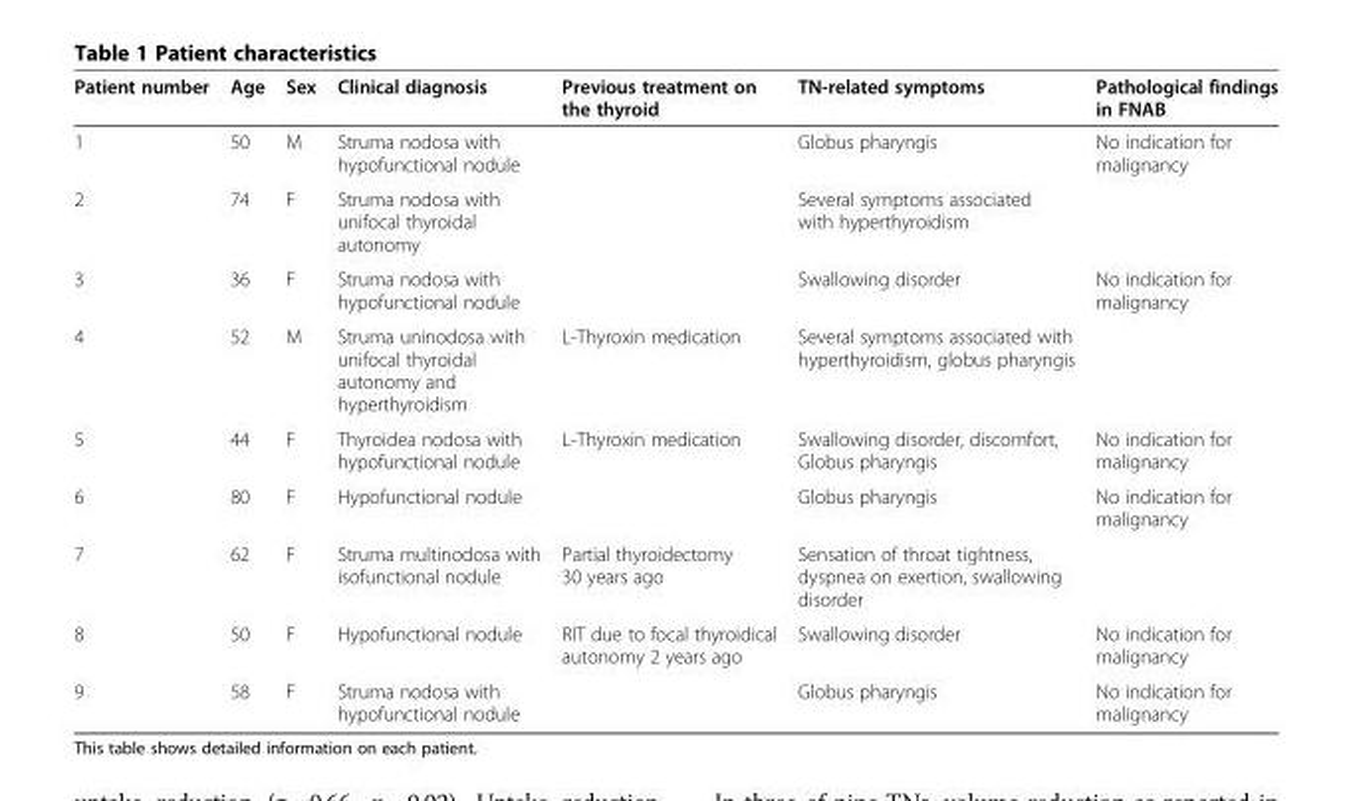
<table><thead><tr><td>Patient number</td><td>Age</td><td>Sex</td><td>Clinical diagnosis</td><td>Previous treatment on the thyroid</td><td>TN-related symptoms</td><td>Pathological findings in FNAB</td></tr></thead><tbody><tr><td>1</td><td>50</td><td>M</td><td>Struma nodosa with hypofunctional nodule</td><td></td><td>Globus pharyngis</td><td>No indication for malignancy</td></tr><tr><td>2</td><td>74</td><td>F</td><td>Struma nodosa with unifocal thyroidal autonomy</td><td></td><td>Several symptoms associated with hyperthyroidism</td><td></td></tr><tr><td>3</td><td>36</td><td>F</td><td>Struma nodosa with hypofunctional nodule</td><td></td><td>Swallowing disorder</td><td>No indication for malignancy</td></tr><tr><td>4</td><td>52</td><td>M</td><td>Struma uninodosa with unifocal thyroidal autonomy and hyperthyroidism</td><td>L-Thyroxin medication</td><td>Several symptoms associated with hyperthyroidism, globus pharyngis</td><td></td></tr><tr><td>5</td><td>44</td><td>F</td><td>Thyroidea nodosa with hypofunctional nodule</td><td>L-Thyroxin medication</td><td>Swallowing disorder, discomfort, Globus pharyngis</td><td>No indication for malignancy</td></tr><tr><td>6</td><td>80</td><td>F</td><td>Hypofunctional nodule</td><td></td><td>Globus pharyngis</td><td>No indication for malignancy</td></tr><tr><td>7</td><td>62</td><td>F</td><td>Struma multinodosa with isofunctional nodule</td><td>Partial thyroidectomy 30 years ago</td><td>Sensation of throat tightness, dyspnea on exertion, swallowing disorder</td><td></td></tr><tr><td>8</td><td>50</td><td>F</td><td>Hypofunctional nodule</td><td>RIT due to focal thyroidical autonomy 2 years ago</td><td>Swallowing disorder</td><td>No indication for malignancy</td></tr><tr><td>9</td><td>58</td><td>F</td><td>Struma nodosa with hypofunctional nodule</td><td></td><td>Globus pharyngis</td><td>No indication for malignancy</td></tr></tbody></table>